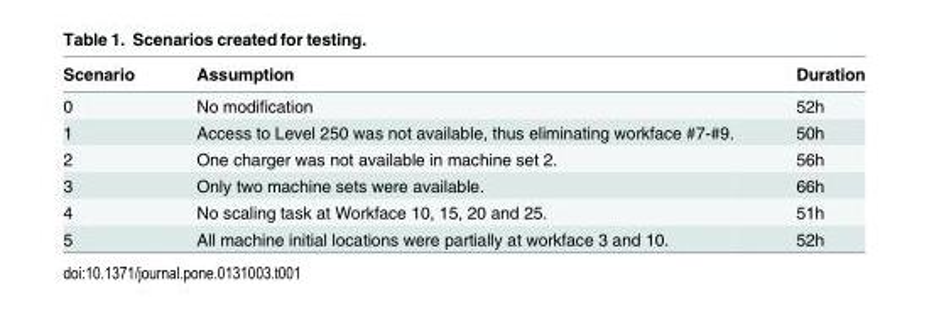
<table><thead><tr><td>Scenario</td><td>Assumption</td><td>Duration</td></tr></thead><tbody><tr><td>0</td><td>No modification</td><td>52h</td></tr><tr><td>1</td><td>Access to Level 250 was not available, thus eliminating workface #7-#9.</td><td>50h</td></tr><tr><td>2</td><td>One charger was not available in machine set 2.</td><td>56h</td></tr><tr><td>3</td><td>Only two machine sets were available.</td><td>66h</td></tr><tr><td>4</td><td>No scaling task at Workface 10, 15, 20 and 25.</td><td>51h</td></tr><tr><td>5</td><td>All machine initial locations were partially at workface 3 and 10.</td><td>52h</td></tr></tbody></table>